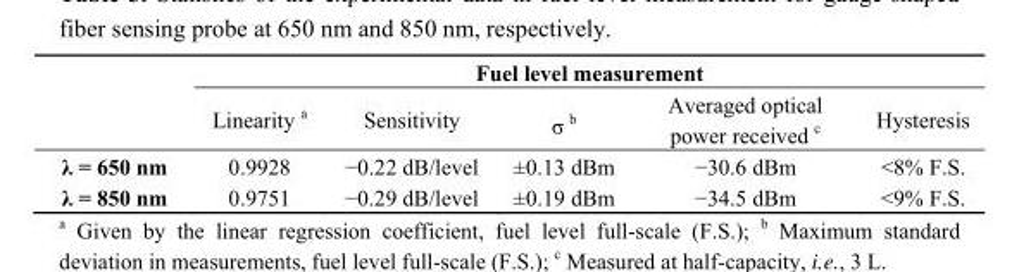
<table><thead><tr><td rowspan="2"></td><td colspan="5">Fuel level measurement</td></tr><tr><td>Linearity <sup>a</sup></td><td>Sensitivity</td><td>σ <sup>b</sup></td><td>Averaged optical power received <sup>c</sup></td><td>Hysteresis</td></tr></thead><tbody><tr><td>λ = 650 nm</td><td>0.9928</td><td>−0.22 dB/level</td><td>±0.13 dBm</td><td>−30.6 dBm</td><td>&lt;8% F.S.</td></tr><tr><td>λ = 850 nm</td><td>0.9751</td><td>−0.29 dB/level</td><td>±0.19 dBm</td><td>−34.5 dBm</td><td>&lt;9% F.S.</td></tr></tbody></table>